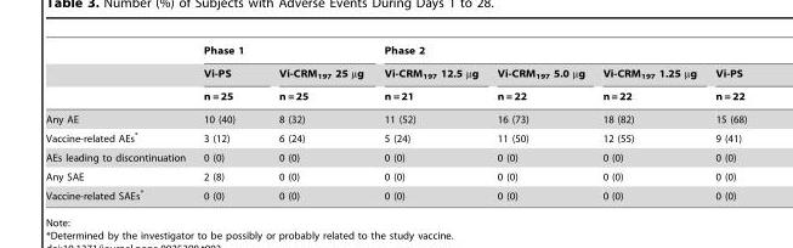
<table><thead><tr><td rowspan="3"></td><td colspan="2">Phase 1</td><td colspan="4">Phase 2</td></tr><tr><td rowspan="2">Vi-PS n = 25</td><td rowspan="2">Vi-CRM<sub>197</sub> 25 µg n = 25</td><td rowspan="2">Vi-CRM<sub>197</sub> 12.5 µg n = 21</td><td rowspan="2">Vi-CRM<sub>197</sub> 5.0 µg n = 22</td><td rowspan="2">Vi-CRM<sub>197</sub> 1.25 µg n = 22</td><td rowspan="2">Vi-PS n = 22</td></tr><tr></tr></thead><tbody><tr><td>Any AE</td><td>10 (40)</td><td>8 (32)</td><td>11 (52)</td><td>16 (73)</td><td>18 (82)</td><td>15 (68)</td></tr><tr><td>Vaccine-related AEs*</td><td>3 (12)</td><td>6 (24)</td><td>5 (24)</td><td>11 (50)</td><td>12 (55)</td><td>9 (41)</td></tr><tr><td>AEs leading to discontinuation</td><td>0 (0)</td><td>0 (0)</td><td>0 (0)</td><td>0 (0)</td><td>0 (0)</td><td>0 (0)</td></tr><tr><td>Any SAE</td><td>2 (8)</td><td>0 (0)</td><td>0 (0)</td><td>0 (0)</td><td>0 (0)</td><td>0 (0)</td></tr><tr><td>Vaccine-related SAEs*</td><td>0 (0)</td><td>0 (0)</td><td>0 (0)</td><td>0 (0)</td><td>0 (0)</td><td>0 (0)</td></tr></tbody></table>